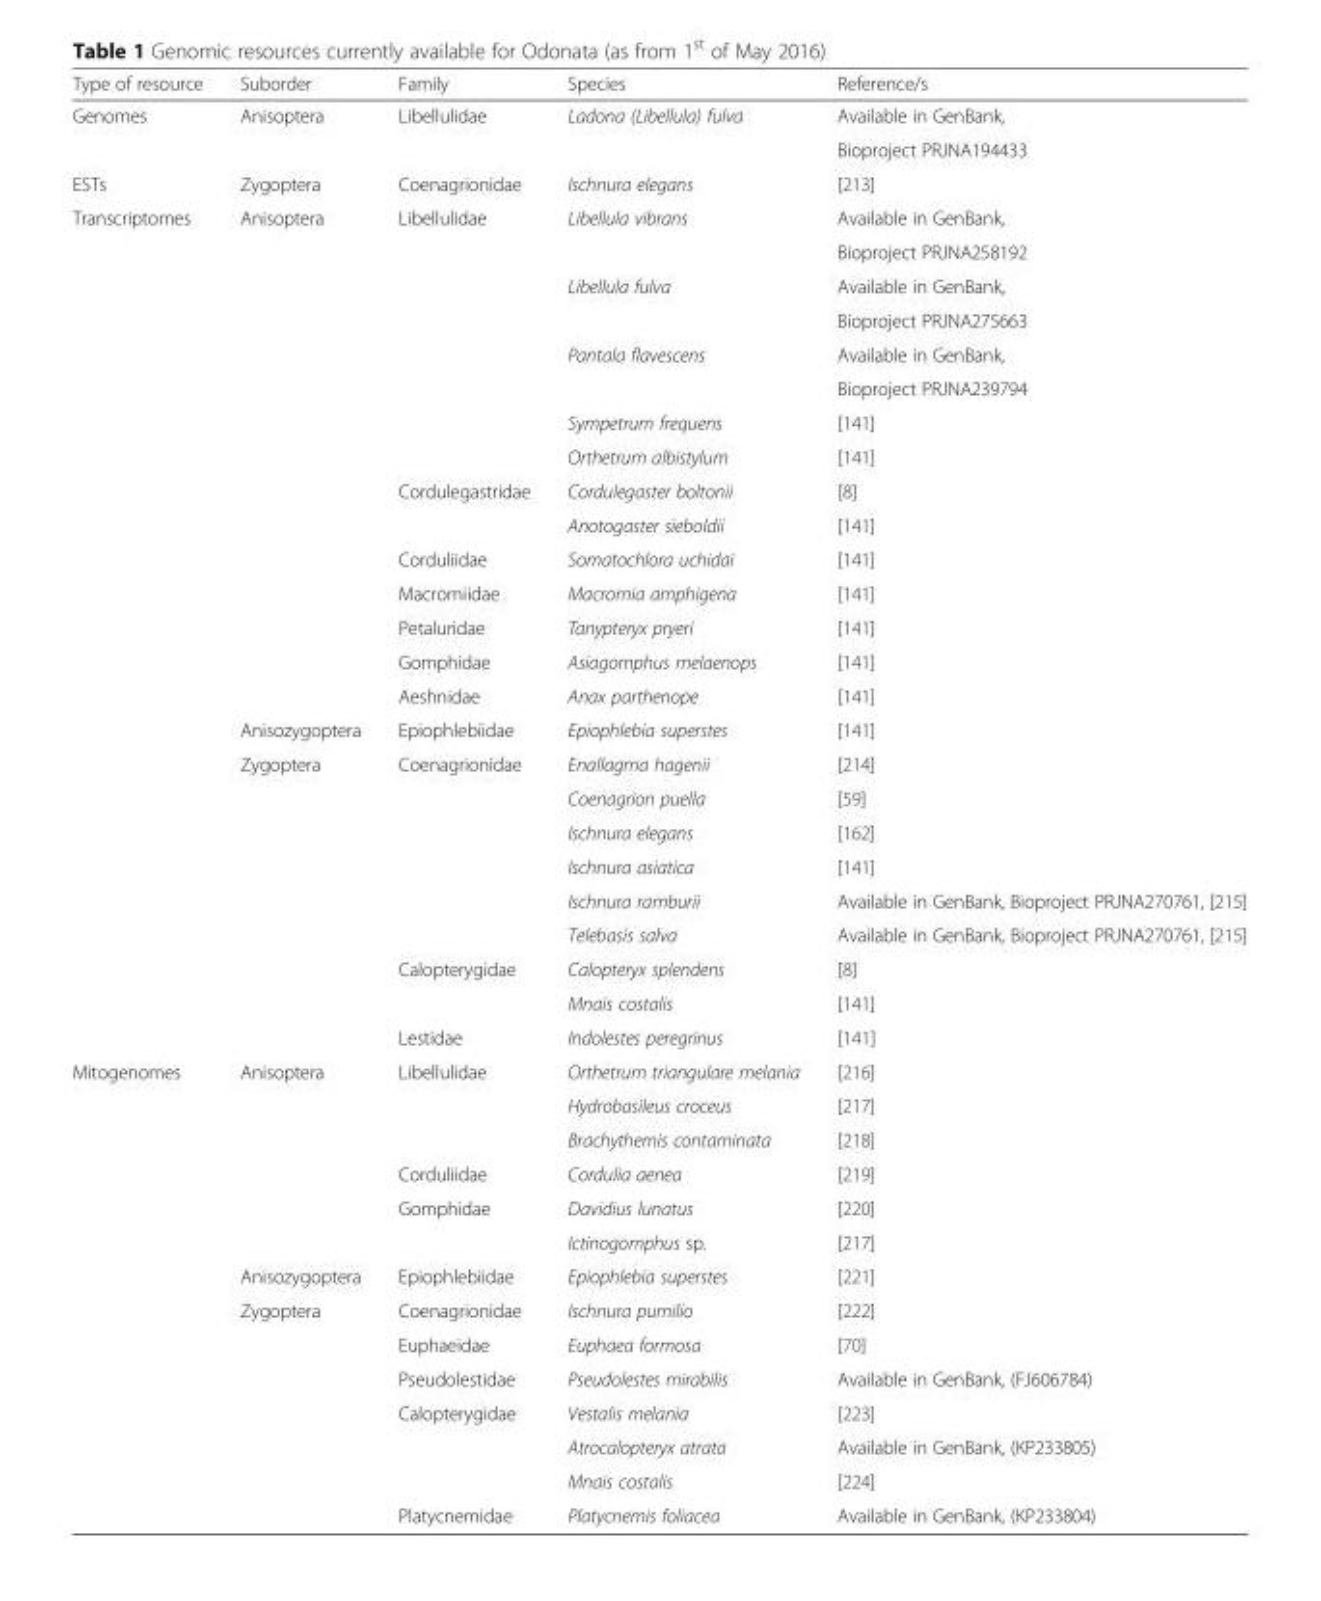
<table><thead><tr><td>Type of resource</td><td>Suborder</td><td>Family</td><td>Species</td><td>Reference/s</td></tr></thead><tbody><tr><td rowspan="2">Genomes</td><td rowspan="2">Anisoptera</td><td rowspan="2">Libellulidae</td><td rowspan="2">Ladona (Libellula) fulva</td><td>Available in GenBank,</td></tr><tr><td>Bioproject PRJNA194433</td></tr><tr><td>ESTs</td><td>Zygoptera</td><td>Coenagrionidae</td><td>Ischnura elegans</td><td>[213]</td></tr><tr><td rowspan="25">Transcriptomes</td><td rowspan="2">Anisoptera</td><td rowspan="2">Libellulidae</td><td rowspan="2">Libellula vibrans</td><td>Available in GenBank,</td></tr><tr><td>Bioproject PRJNA258192</td></tr><tr><td rowspan="2"></td><td rowspan="2"></td><td rowspan="2">Libellula fulva</td><td>Available in GenBank,</td></tr><tr><td>Bioproject PRJNA275663</td></tr><tr><td rowspan="2"></td><td rowspan="2"></td><td rowspan="2">Pantala flavescens</td><td>Available in GenBank,</td></tr><tr><td>Bioproject PRJNA239794</td></tr><tr><td></td><td></td><td>Sympetrum frequens</td><td>[141]</td></tr><tr><td></td><td></td><td>Orthetrum albistylum</td><td>[141]</td></tr><tr><td></td><td>Cordulegastridae</td><td>Cordulegaster boltonii</td><td>[8]</td></tr><tr><td></td><td></td><td>Anotogaster sieboldii</td><td>[141]</td></tr><tr><td></td><td>Corduliidae</td><td>Somatochlora uchidai</td><td>[141]</td></tr><tr><td></td><td>Macromiidae</td><td>Macromia amphigena</td><td>[141]</td></tr><tr><td></td><td>Petaluridae</td><td>Tanypteryx pryeri</td><td>[141]</td></tr><tr><td></td><td>Gomphidae</td><td>Asiagomphus melaenops</td><td>[141]</td></tr><tr><td></td><td>Aeshnidae</td><td>Anax parthenope</td><td>[141]</td></tr><tr><td>Anisozygoptera</td><td>Epiophlebiidae</td><td>Epiophlebia superstes</td><td>[141]</td></tr><tr><td>Zygoptera</td><td>Coenagrionidae</td><td>Enallagma hagenii</td><td>[214]</td></tr><tr><td></td><td></td><td>Coenagrion puella</td><td>[59]</td></tr><tr><td></td><td></td><td>Ischnura elegans</td><td>[162]</td></tr><tr><td></td><td></td><td>Ischnura asiatica</td><td>[141]</td></tr><tr><td></td><td></td><td>Ischnura ramburii</td><td>Available in GenBank, Bioproject PRJNA270761, [215]</td></tr><tr><td></td><td></td><td>Telebasis salva</td><td>Available in GenBank, Bioproject PRJNA270761, [215]</td></tr><tr><td></td><td>Calopterygidae</td><td>Calopteryx splendens</td><td>[8]</td></tr><tr><td></td><td></td><td>Mnais costalis</td><td>[141]</td></tr><tr><td></td><td>Lestidae</td><td>Indolestes peregrinus</td><td>[141]</td></tr><tr><td rowspan="14">Mitogenomes</td><td>Anisoptera</td><td>Libellulidae</td><td>Orthetrum triangulare melania</td><td>[216]</td></tr><tr><td></td><td></td><td>Hydrobasileus croceus</td><td>[217]</td></tr><tr><td></td><td></td><td>Brachythemis contaminata</td><td>[218]</td></tr><tr><td></td><td>Corduliidae</td><td>Cordulia aenea</td><td>[219]</td></tr><tr><td></td><td>Gomphidae</td><td>Davidius lunatus</td><td>[220]</td></tr><tr><td></td><td></td><td>Ictinogomphus sp.</td><td>[217]</td></tr><tr><td>Anisozygoptera</td><td>Epiophlebiidae</td><td>Epiophlebia superstes</td><td>[221]</td></tr><tr><td>Zygoptera</td><td>Coenagrionidae</td><td>Ischnura pumilio</td><td>[222]</td></tr><tr><td></td><td>Euphaeidae</td><td>Euphaea formosa</td><td>[70]</td></tr><tr><td></td><td>Pseudolestidae</td><td>Pseudolestes mirabilis</td><td>Available in GenBank, (FJ606784)</td></tr><tr><td></td><td>Calopterygidae</td><td>Vestalis melania</td><td>[223]</td></tr><tr><td></td><td></td><td>Atrocalopteryx atrata</td><td>Available in GenBank, (KP233805)</td></tr><tr><td></td><td></td><td>Mnais costalis</td><td>[224]</td></tr><tr><td></td><td>Platycnemidae</td><td>Platycnemis foliacea</td><td>Available in GenBank, (KP233804)</td></tr></tbody></table>